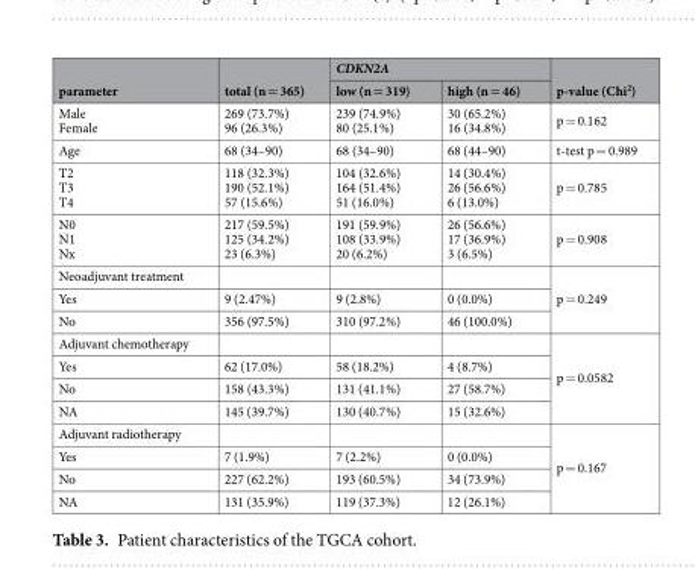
<table><thead><tr><td rowspan="2">parameter</td><td rowspan="2">total (n = 365)</td><td colspan="2">CDKN2A</td><td rowspan="2">p-value (Chi<sup>2</sup>)</td></tr><tr><td>low (n = 319)</td><td>high (n = 46)</td></tr></thead><tbody><tr><td>Male Female</td><td>269 (73.7%) 96 (26.3%)</td><td>239 (74.9%) 80 (25.1%)</td><td>30 (65.2%) 16 (34.8%)</td><td>p = 0.162</td></tr><tr><td>Age</td><td>68 (34–90)</td><td>68 (34–90)</td><td>68 (44–90)</td><td>t-test p = 0.989</td></tr><tr><td>T2 T3 T4</td><td>118 (32.3%) 190 (52.1%) 57 (15.6%)</td><td>104 (32.6%) 164 (51.4%) 51 (16.0%)</td><td>14 (30.4%) 26 (56.6%) 6 (13.0%)</td><td>p = 0.785</td></tr><tr><td>N0 N1 Nx</td><td>217 (59.5%) 125 (34.2%) 23 (6.3%)</td><td>191 (59.9%) 108 (33.9%) 20 (6.2%)</td><td>26 (56.6%) 17 (36.9%) 3 (6.5%)</td><td>p = 0.908</td></tr><tr><td colspan="4">Neoadjuvant treatment</td><td rowspan="3">p = 0.249</td></tr><tr><td>Yes</td><td>9 (2.47%)</td><td>9 (2.8%)</td><td>0 (0.0%)</td></tr><tr><td>No</td><td>356 (97.5%)</td><td>310 (97.2%)</td><td>46 (100.0%)</td></tr><tr><td colspan="4">Adjuvant chemotherapy</td><td rowspan="4">p = 0.0582</td></tr><tr><td>Yes</td><td>62 (17.0%)</td><td>58 (18.2%)</td><td>4 (8.7%)</td></tr><tr><td>No</td><td>158 (43.3%)</td><td>131 (41.1%)</td><td>27 (58.7%)</td></tr><tr><td>NA</td><td>145 (39.7%)</td><td>130 (40.7%)</td><td>15 (32.6%)</td></tr><tr><td colspan="4">Adjuvant radiotherapy</td><td rowspan="4">p = 0.167</td></tr><tr><td>Yes</td><td>7 (1.9%)</td><td>7 (2.2%)</td><td>0 (0.0%)</td></tr><tr><td>No</td><td>227 (62.2%)</td><td>193 (60.5%)</td><td>34 (73.9%)</td></tr><tr><td>NA</td><td>131 (35.9%)</td><td>119 (37.3%)</td><td>12 (26.1%)</td></tr></tbody></table>